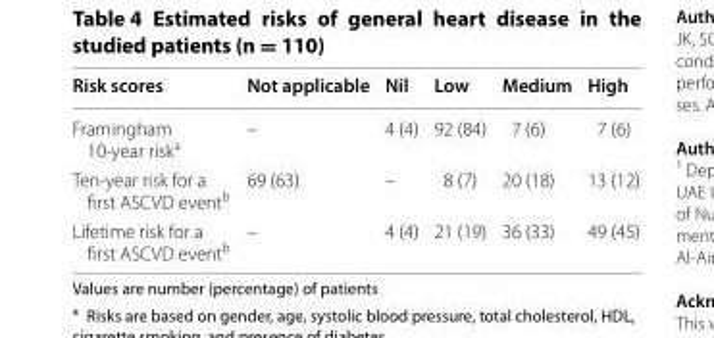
<table><thead><tr><td>Risk scores</td><td>Not applicable</td><td>Nil</td><td>Low</td><td>Medium</td><td>High</td></tr></thead><tbody><tr><td>Framingham 10‑year risk<sup>a</sup></td><td>–</td><td>4 (4)</td><td>92 (84)</td><td>7 (6)</td><td>7 (6)</td></tr><tr><td>Ten‑year risk for a first ASCVD event<sup>b</sup></td><td>69 (63)</td><td>–</td><td>8 (7)</td><td>20 (18)</td><td>13 (12)</td></tr><tr><td>Lifetime risk for a first ASCVD event<sup>b</sup></td><td>–</td><td>4 (4)</td><td>21 (19)</td><td>36 (33)</td><td>49 (45)</td></tr></tbody></table>